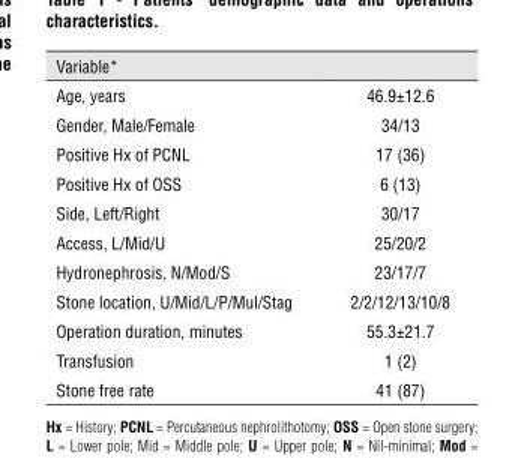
<table><thead><tr><td colspan="2">Variable*</td></tr><tr><td>Age, years</td><td>46.9±12.6</td></tr></thead><tbody><tr><td>Gender, Male/Female</td><td>34/13</td></tr><tr><td>Positive Hx of PCNL</td><td>17 (36)</td></tr><tr><td>Positive Hx of OSS</td><td>6 (13)</td></tr><tr><td>Side, Left/Right</td><td>30/17</td></tr><tr><td>Access, L/Mid/U</td><td>25/20/2</td></tr><tr><td>Hydronephrosis, N/Mod/S</td><td>23/17/7</td></tr><tr><td>Stone location, U/Mid/L/P/Mul/Stag</td><td>2/2/12/13/10/8</td></tr><tr><td>Operation duration, minutes</td><td>55.3±21.7</td></tr><tr><td>Transfusion</td><td>1 (2)</td></tr><tr><td>Stone free rate</td><td>41 (87)</td></tr></tbody></table>